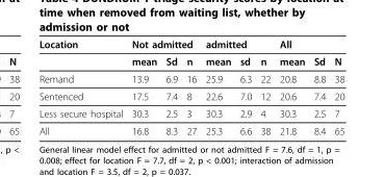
<table><thead><tr><td rowspan="2">Location</td><td colspan="3">Not admitted</td><td colspan="3">admitted</td><td colspan="3">All</td></tr><tr><td>mean</td><td>Sd</td><td>n</td><td>mean</td><td>sd</td><td>n</td><td>mean</td><td>Sd</td><td>N</td></tr></thead><tbody><tr><td>Remand</td><td>13.9</td><td>6.9</td><td>16</td><td>25.9</td><td>6.3</td><td>22</td><td>20.8</td><td>8.8</td><td>38</td></tr><tr><td>Sentenced</td><td>17.5</td><td>7.4</td><td>8</td><td>22.6</td><td>7.0</td><td>12</td><td>20.6</td><td>7.4</td><td>20</td></tr><tr><td>Less secure hospital</td><td>30.3</td><td>2.5</td><td>3</td><td>30.3</td><td>2.9</td><td>4</td><td>30.3</td><td>2.5</td><td>7</td></tr><tr><td>All</td><td>16.8</td><td>8.3</td><td>27</td><td>25.3</td><td>6.6</td><td>38</td><td>21.8</td><td>8.4</td><td>65</td></tr></tbody></table>